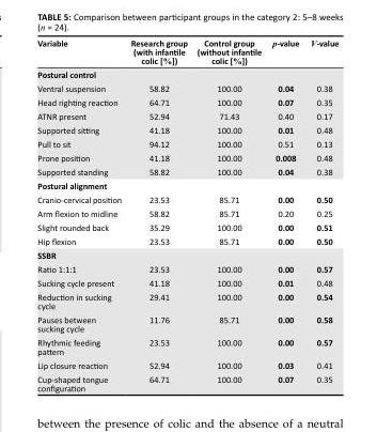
<table><thead><tr><td>Variable</td><td>Research group (with infantile colic [%])</td><td>Control group (without infantile colic [%])</td><td>p-value</td><td>V-value</td></tr></thead><tbody><tr><td colspan="5">Postural control</td></tr><tr><td>Ventral suspension</td><td>58.82</td><td>100.00</td><td>0.04</td><td>0.38</td></tr><tr><td>Head righting reaction</td><td>64.71</td><td>100.00</td><td>0.07</td><td>0.35</td></tr><tr><td>ATNR present</td><td>52.94</td><td>71.43</td><td>0.40</td><td>0.17</td></tr><tr><td>Supported sitting</td><td>41.18</td><td>100.00</td><td>0.01</td><td>0.48</td></tr><tr><td>Pull to sit</td><td>94.12</td><td>100.00</td><td>0.51</td><td>0.13</td></tr><tr><td>Prone position</td><td>41.18</td><td>100.00</td><td>0.008</td><td>0.48</td></tr><tr><td>Supported standing</td><td>58.82</td><td>100.00</td><td>0.04</td><td>0.38</td></tr><tr><td colspan="5">Postural alignment</td></tr><tr><td>Cranio-cervical position</td><td>23.53</td><td>85.71</td><td>0.00</td><td>0.50</td></tr><tr><td>Arm flexion to midline</td><td>58.82</td><td>85.71</td><td>0.20</td><td>0.25</td></tr><tr><td>Slight rounded back</td><td>35.29</td><td>100.00</td><td>0.00</td><td>0.51</td></tr><tr><td>Hip flexion</td><td>23.53</td><td>85.71</td><td>0.00</td><td>0.50</td></tr><tr><td colspan="5">SSBR</td></tr><tr><td>Ratio 1:1:1</td><td>23.53</td><td>100.00</td><td>0.00</td><td>0.57</td></tr><tr><td>Sucking cycle present</td><td>41.18</td><td>100.00</td><td>0.01</td><td>0.48</td></tr><tr><td>Reduction in sucking cycle</td><td>29.41</td><td>100.00</td><td>0.00</td><td>0.54</td></tr><tr><td>Pauses between sucking cycle</td><td>11.76</td><td>85.71</td><td>0.00</td><td>0.58</td></tr><tr><td>Rhythmic feeding pattern</td><td>23.53</td><td>100.00</td><td>0.00</td><td>0.57</td></tr><tr><td>Lip closure reaction</td><td>52.94</td><td>100.00</td><td>0.03</td><td>0.41</td></tr><tr><td>Cup-shaped tongue configuration</td><td>64.71</td><td>100.00</td><td>0.07</td><td>0.35</td></tr></tbody></table>